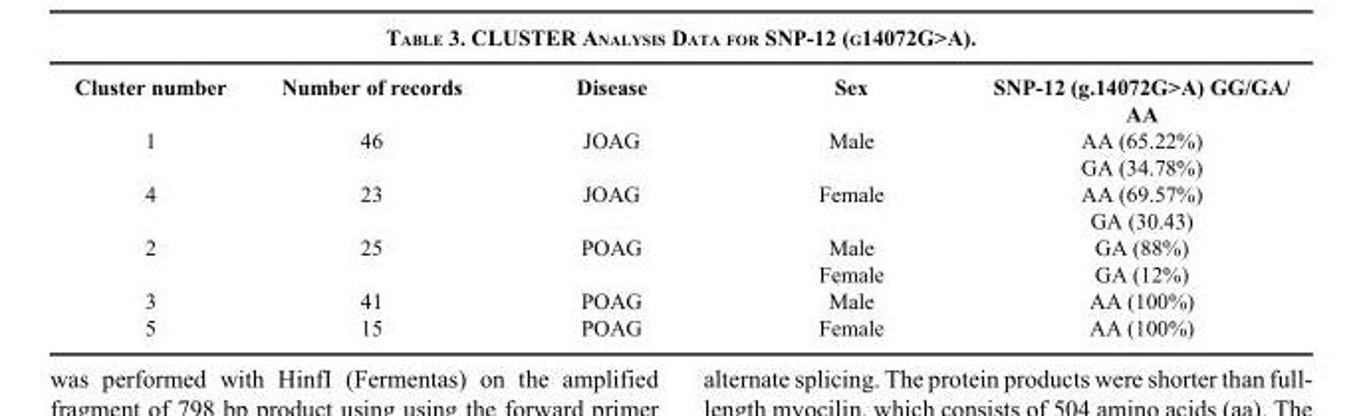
<table><thead><tr><td>Cluster number</td><td>Number of records</td><td>Disease</td><td>Sex</td><td>SNP-12 (g.14072G&gt;A) GG/GA/ AA</td></tr></thead><tbody><tr><td rowspan="2">1</td><td>46</td><td>JOAG</td><td>Male</td><td>AA (65.22%)</td></tr><tr><td></td><td></td><td></td><td>GA (34.78%)</td></tr><tr><td rowspan="2">4</td><td>23</td><td>JOAG</td><td>Female</td><td>AA (69.57%)</td></tr><tr><td></td><td></td><td></td><td>GA (30.43)</td></tr><tr><td rowspan="2">2</td><td>25</td><td>POAG</td><td>Male</td><td>GA (88%)</td></tr><tr><td></td><td></td><td>Female</td><td>GA (12%)</td></tr><tr><td>3</td><td>41</td><td>POAG</td><td>Male</td><td>AA (100%)</td></tr><tr><td>5</td><td>15</td><td>POAG</td><td>Female</td><td>AA (100%)</td></tr></tbody></table>